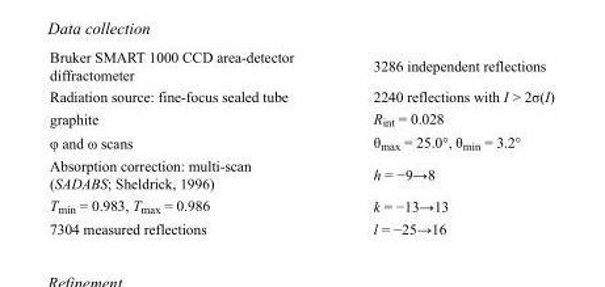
<table><tbody><tr><td>Bruker SMART 1000 CCD area-detector diffractometer</td><td>3286 independent reflections</td></tr><tr><td>Radiation source: fine-focus sealed tube</td><td>2240 reflections with I &gt; 2σ(I)</td></tr><tr><td>graphite</td><td>R<sub>int</sub> = 0.028</td></tr><tr><td>φ and ω scans</td><td>θ<sub>max</sub> = 25.0°, θ<sub>min</sub> = 3.2°</td></tr><tr><td>Absorption correction: multi-scan (SADABS; Sheldrick, 1996)</td><td>h = −9→8</td></tr><tr><td>T<sub>min</sub> = 0.983, T<sub>max</sub> = 0.986</td><td>k = −13→13</td></tr><tr><td>7304 measured reflections</td><td>l = −25→16</td></tr></tbody></table>